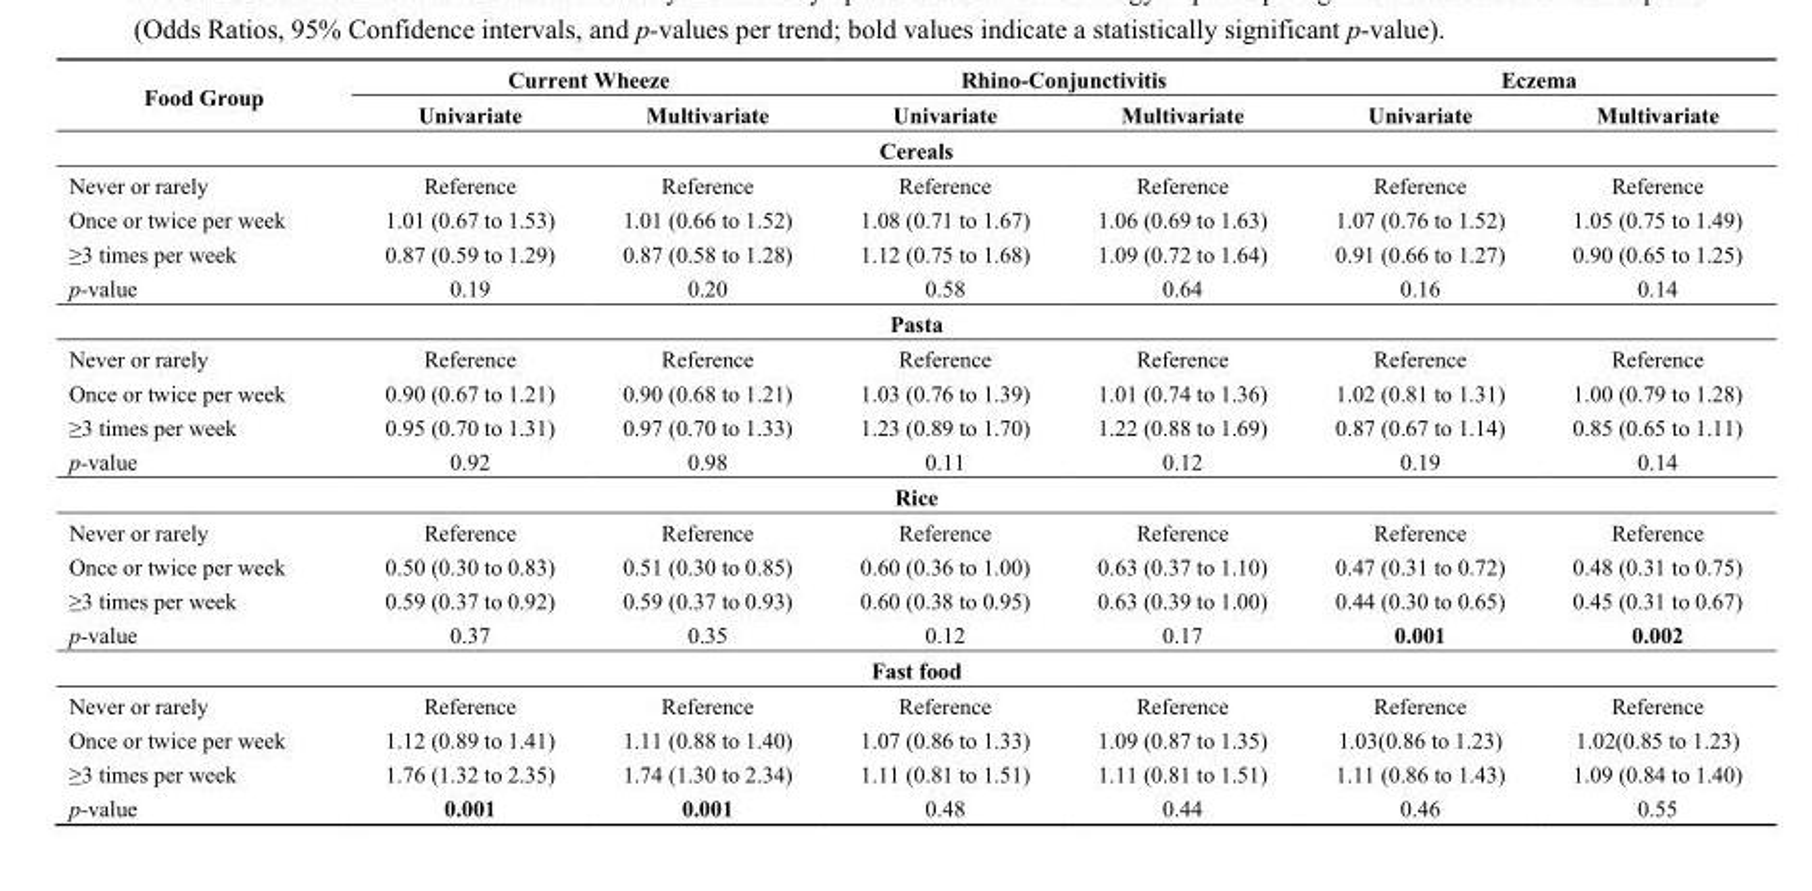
<table><thead><tr><td rowspan="2">Food Group</td><td colspan="2">Current Wheeze</td><td colspan="2">Rhino-Conjunctivitis</td><td colspan="2">Eczema</td></tr><tr><td>Univariate</td><td>Multivariate</td><td>Univariate</td><td>Multivariate</td><td>Univariate</td><td>Multivariate</td></tr></thead><tbody><tr><td colspan="7">Cereals</td></tr><tr><td>Never or rarely</td><td>Reference</td><td>Reference</td><td>Reference</td><td>Reference</td><td>Reference</td><td>Reference</td></tr><tr><td>Once or twice per week</td><td>1.01 (0.67 to 1.53)</td><td>1.01 (0.66 to 1.52)</td><td>1.08 (0.71 to 1.67)</td><td>1.06 (0.69 to 1.63)</td><td>1.07 (0.76 to 1.52)</td><td>1.05 (0.75 to 1.49)</td></tr><tr><td>≥3 times per week</td><td>0.87 (0.59 to 1.29)</td><td>0.87 (0.58 to 1.28)</td><td>1.12 (0.75 to 1.68)</td><td>1.09 (0.72 to 1.64)</td><td>0.91 (0.66 to 1.27)</td><td>0.90 (0.65 to 1.25)</td></tr><tr><td>p-value</td><td>0.19</td><td>0.20</td><td>0.58</td><td>0.64</td><td>0.16</td><td>0.14</td></tr><tr><td colspan="7">Pasta</td></tr><tr><td>Never or rarely</td><td>Reference</td><td>Reference</td><td>Reference</td><td>Reference</td><td>Reference</td><td>Reference</td></tr><tr><td>Once or twice per week</td><td>0.90 (0.67 to 1.21)</td><td>0.90 (0.68 to 1.21)</td><td>1.03 (0.76 to 1.39)</td><td>1.01 (0.74 to 1.36)</td><td>1.02 (0.81 to 1.31)</td><td>1.00 (0.79 to 1.28)</td></tr><tr><td>≥3 times per week</td><td>0.95 (0.70 to 1.31)</td><td>0.97 (0.70 to 1.33)</td><td>1.23 (0.89 to 1.70)</td><td>1.22 (0.88 to 1.69)</td><td>0.87 (0.67 to 1.14)</td><td>0.85 (0.65 to 1.11)</td></tr><tr><td>p-value</td><td>0.92</td><td>0.98</td><td>0.11</td><td>0.12</td><td>0.19</td><td>0.14</td></tr><tr><td colspan="7">Rice</td></tr><tr><td>Never or rarely</td><td>Reference</td><td>Reference</td><td>Reference</td><td>Reference</td><td>Reference</td><td>Reference</td></tr><tr><td>Once or twice per week</td><td>0.50 (0.30 to 0.83)</td><td>0.51 (0.30 to 0.85)</td><td>0.60 (0.36 to 1.00)</td><td>0.63 (0.37 to 1.10)</td><td>0.47 (0.31 to 0.72)</td><td>0.48 (0.31 to 0.75)</td></tr><tr><td>≥3 times per week</td><td>0.59 (0.37 to 0.92)</td><td>0.59 (0.37 to 0.93)</td><td>0.60 (0.38 to 0.95)</td><td>0.63 (0.39 to 1.00)</td><td>0.44 (0.30 to 0.65)</td><td>0.45 (0.31 to 0.67)</td></tr><tr><td>p-value</td><td>0.37</td><td>0.35</td><td>0.12</td><td>0.17</td><td>0.001</td><td>0.002</td></tr><tr><td colspan="7">Fast food</td></tr><tr><td>Never or rarely</td><td>Reference</td><td>Reference</td><td>Reference</td><td>Reference</td><td>Reference</td><td>Reference</td></tr><tr><td>Once or twice per week</td><td>1.12 (0.89 to 1.41)</td><td>1.11 (0.88 to 1.40)</td><td>1.07 (0.86 to 1.33)</td><td>1.09 (0.87 to 1.35)</td><td>1.03(0.86 to 1.23)</td><td>1.02(0.85 to 1.23)</td></tr><tr><td>≥3 times per week</td><td>1.76 (1.32 to 2.35)</td><td>1.74 (1.30 to 2.34)</td><td>1.11 (0.81 to 1.51)</td><td>1.11 (0.81 to 1.51)</td><td>1.11 (0.86 to 1.43)</td><td>1.09 (0.84 to 1.40)</td></tr><tr><td>p-value</td><td>0.001</td><td>0.001</td><td>0.48</td><td>0.44</td><td>0.46</td><td>0.55</td></tr></tbody></table>